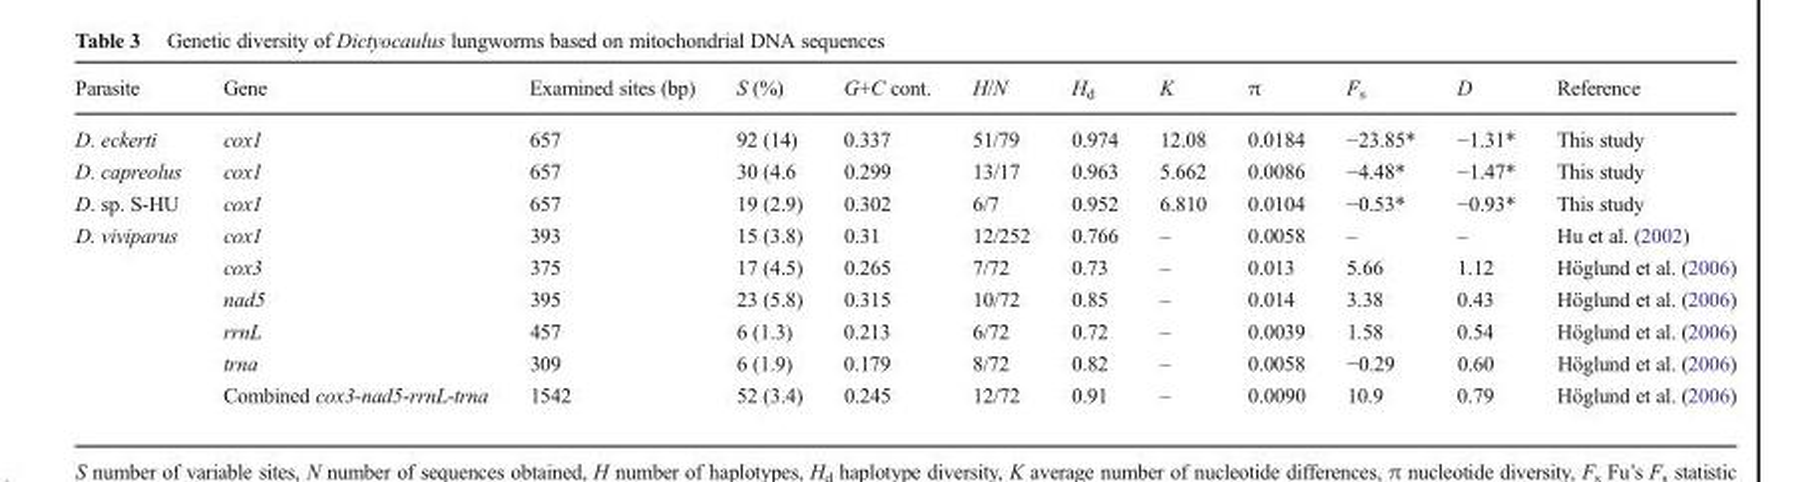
<table><thead><tr><td>Parasite</td><td>Gene</td><td>Examined sites (bp)</td><td>S (%)</td><td>G+C cont.</td><td>H/N</td><td>H<sub>d</sub></td><td>K</td><td>π</td><td>F<sub>s</sub></td><td>D</td><td>Reference</td></tr></thead><tbody><tr><td>D. eckerti</td><td>cox1</td><td>657</td><td>92 (14)</td><td>0.337</td><td>51/79</td><td>0.974</td><td>12.08</td><td>0.0184</td><td>−23.85*</td><td>−1.31*</td><td>This study</td></tr><tr><td>D. capreolus</td><td>cox1</td><td>657</td><td>30 (4.6</td><td>0.299</td><td>13/17</td><td>0.963</td><td>5.662</td><td>0.0086</td><td>−4.48*</td><td>−1.47*</td><td>This study</td></tr><tr><td>D. sp. S-HU</td><td>cox1</td><td>657</td><td>19 (2.9)</td><td>0.302</td><td>6/7</td><td>0.952</td><td>6.810</td><td>0.0104</td><td>−0.53*</td><td>−0.93*</td><td>This study</td></tr><tr><td rowspan="6">D. viviparus</td><td>cox1</td><td>393</td><td>15 (3.8)</td><td>0.31</td><td>12/252</td><td>0.766</td><td>–</td><td>0.0058</td><td>–</td><td>–</td><td>Hu et al. (2002)</td></tr><tr><td>cox3</td><td>375</td><td>17 (4.5)</td><td>0.265</td><td>7/72</td><td>0.73</td><td>–</td><td>0.013</td><td>5.66</td><td>1.12</td><td>Höglund et al. (2006)</td></tr><tr><td>nad5</td><td>395</td><td>23 (5.8)</td><td>0.315</td><td>10/72</td><td>0.85</td><td>–</td><td>0.014</td><td>3.38</td><td>0.43</td><td>Höglund et al. (2006)</td></tr><tr><td>rrnL</td><td>457</td><td>6 (1.3)</td><td>0.213</td><td>6/72</td><td>0.72</td><td>–</td><td>0.0039</td><td>1.58</td><td>0.54</td><td>Höglund et al. (2006)</td></tr><tr><td>trna</td><td>309</td><td>6 (1.9)</td><td>0.179</td><td>8/72</td><td>0.82</td><td>–</td><td>0.0058</td><td>−0.29</td><td>0.60</td><td>Höglund et al. (2006)</td></tr><tr><td>Combined cox3-nad5-rrnL-trna</td><td>1542</td><td>52 (3.4)</td><td>0.245</td><td>12/72</td><td>0.91</td><td>–</td><td>0.0090</td><td>10.9</td><td>0.79</td><td>Höglund et al. (2006)</td></tr></tbody></table>